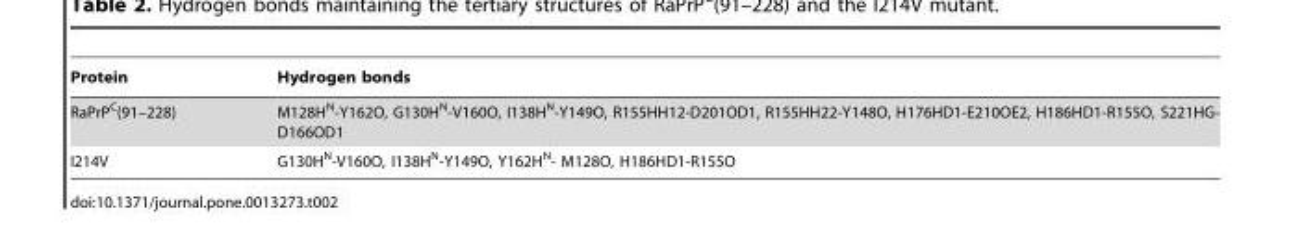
<table><thead><tr><td>Protein</td><td>Hydrogen bonds</td></tr></thead><tbody><tr><td>RaPrP<sup>C</sup>(91–228)</td><td>M128H<sup>N</sup>-Y162O, G130H<sup>N</sup>-V160O, I138H<sup>N</sup>-Y149O, R155HH12-D201OD1, R155HH22-Y148O, H176HD1-E210OE2, H186HD1-R155O, S221HG- D166OD1</td></tr><tr><td>I214V</td><td>G130H<sup>N</sup>-V160O, I138H<sup>N</sup>-Y149O, Y162H<sup>N</sup>- M128O, H186HD1-R155O</td></tr></tbody></table>